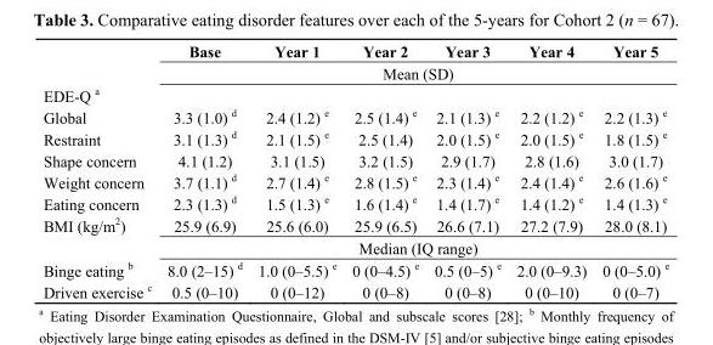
<table><thead><tr><td></td><td>Base</td><td>Year 1</td><td>Year 2</td><td>Year 3</td><td>Year 4</td><td>Year 5</td></tr></thead><tbody><tr><td></td><td colspan="6">Mean (SD)</td></tr><tr><td colspan="7">EDE-Q <sup>a</sup></td></tr><tr><td>Global</td><td>3.3 (1.0) <sup>d</sup></td><td>2.4 (1.2) <sup>e</sup></td><td>2.5 (1.4) <sup>e</sup></td><td>2.1 (1.3) <sup>e</sup></td><td>2.2 (1.2) <sup>e</sup></td><td>2.2 (1.3) <sup>e</sup></td></tr><tr><td>Restraint</td><td>3.1 (1.3) <sup>d</sup></td><td>2.1 (1.5) <sup>e</sup></td><td>2.5 (1.4)</td><td>2.0 (1.5) <sup>e</sup></td><td>2.0 (1.5) <sup>e</sup></td><td>1.8 (1.5) <sup>e</sup></td></tr><tr><td>Shape concern</td><td>4.1 (1.2)</td><td>3.1 (1.5)</td><td>3.2 (1.5)</td><td>2.9 (1.7)</td><td>2.8 (1.6)</td><td>3.0 (1.7)</td></tr><tr><td>Weight concern</td><td>3.7 (1.1) <sup>d</sup></td><td>2.7 (1.4) <sup>e</sup></td><td>2.8 (1.5) <sup>e</sup></td><td>2.3 (1.4) <sup>e</sup></td><td>2.4 (1.4) <sup>e</sup></td><td>2.6 (1.6) <sup>e</sup></td></tr><tr><td>Eating concern</td><td>2.3 (1.3) <sup>d</sup></td><td>1.5 (1.3) <sup>e</sup></td><td>1.6 (1.4) <sup>e</sup></td><td>1.4 (1.7) <sup>e</sup></td><td>1.4 (1.2) <sup>e</sup></td><td>1.4 (1.3) <sup>e</sup></td></tr><tr><td rowspan="2">BMI (kg/m<sup>2</sup>)</td><td>25.9 (6.9)</td><td>25.6 (6.0)</td><td>25.9 (6.5)</td><td>26.6 (7.1)</td><td>27.2 (7.9)</td><td>28.0 (8.1)</td></tr><tr><td colspan="6">Median (IQ range)</td></tr><tr><td>Binge eating <sup>b</sup></td><td>8.0 (2–15) <sup>d</sup></td><td>1.0 (0–5.5) <sup>e</sup></td><td>0 (0–4.5) <sup>e</sup></td><td>0.5 (0–5) <sup>e</sup></td><td>2.0 (0–9.3)</td><td>0 (0–5.0) <sup>e</sup></td></tr><tr><td>Driven exercise <sup>c</sup></td><td>0.5 (0–10)</td><td>0 (0–12)</td><td>0 (0–8)</td><td>0 (0–8)</td><td>0 (0–10)</td><td>0 (0–7)</td></tr></tbody></table>